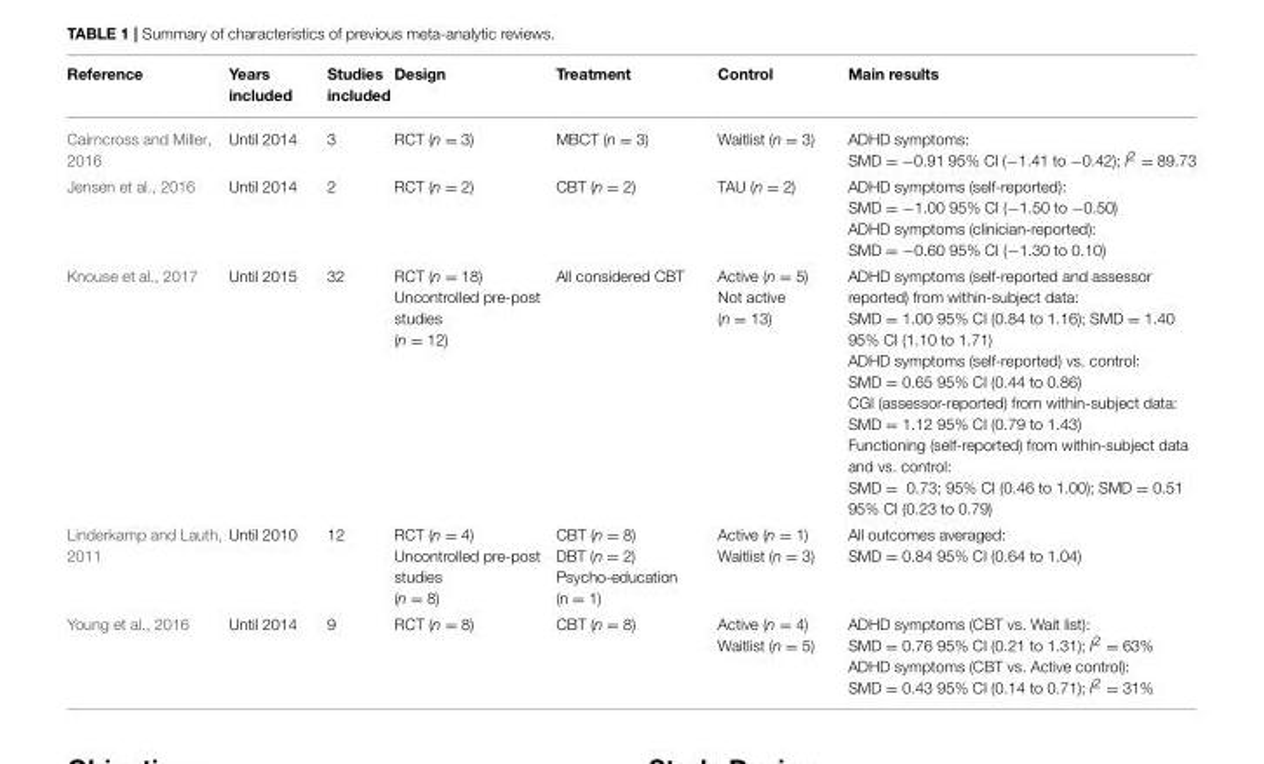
<table><thead><tr><td>Reference</td><td>Years included</td><td>Studies included</td><td>Design</td><td>Treatment</td><td>Control</td><td>Main results</td></tr></thead><tbody><tr><td>Cairncross and Miller, 2016</td><td>Until 2014</td><td>3</td><td>RCT (n = 3)</td><td>MBCT (n = 3)</td><td>Waitlist (n = 3)</td><td>ADHD symptoms: SMD = −0.91 95% CI (−1.41 to −0.42); I<sup>2</sup> = 89.73</td></tr><tr><td>Jensen et al., 2016</td><td>Until 2014</td><td>2</td><td>RCT (n = 2)</td><td>CBT (n = 2)</td><td>TAU (n = 2)</td><td>ADHD symptoms (self-reported): SMD = −1.00 95% CI (−1.50 to −0.50) ADHD symptoms (clinician-reported): SMD = −0.60 95% CI (−1.30 to 0.10)</td></tr><tr><td>Knouse et al., 2017</td><td>Until 2015</td><td>32</td><td>RCT (n = 18) Uncontrolled pre-post studies (n = 12)</td><td>All considered CBT</td><td>Active (n = 5) Not active (n = 13)</td><td>ADHD symptoms (self-reported and assessor reported) from within-subject data: SMD = 1.00 95% CI (0.84 to 1.16); SMD = 1.40 95% CI (1.10 to 1.71) ADHD symptoms (self-reported) vs. control: SMD = 0.65 95% CI (0.44 to 0.86) CGI (assessor-reported) from within-subject data: SMD = 1.12 95% CI (0.79 to 1.43) Functioning (self-reported) from within-subject data and vs. control: SMD = 0.73; 95% CI (0.46 to 1.00); SMD = 0.51 95% CI (0.23 to 0.79)</td></tr><tr><td>Linderkamp and Lauth, 2011</td><td>Until 2010</td><td>12</td><td>RCT (n = 4) Uncontrolled pre-post studies (n = 8)</td><td>CBT (n = 8) DBT (n = 2) Psycho-education (n = 1)</td><td>Active (n = 1) Waitlist (n = 3)</td><td>All outcomes averaged: SMD = 0.84 95% CI (0.64 to 1.04)</td></tr><tr><td>Young et al., 2016</td><td>Until 2014</td><td>9</td><td>RCT (n = 8)</td><td>CBT (n = 8)</td><td>Active (n = 4) Waitlist (n = 5)</td><td>ADHD symptoms (CBT vs. Wait list): SMD = 0.76 95% CI (0.21 to 1.31); I<sup>2</sup> = 63% ADHD symptoms (CBT vs. Active control): SMD = 0.43 95% CI (0.14 to 0.71); I<sup>2</sup> = 31%</td></tr></tbody></table>